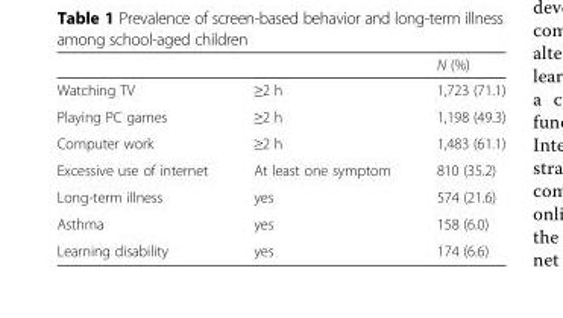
<table><thead><tr><td></td><td></td><td>N (%)</td></tr></thead><tbody><tr><td>Watching TV</td><td>≥2 h</td><td>1,723 (71.1)</td></tr><tr><td>Playing PC games</td><td>≥2 h</td><td>1,198 (49.3)</td></tr><tr><td>Computer work</td><td>≥2 h</td><td>1,483 (61.1)</td></tr><tr><td>Excessive use of internet</td><td>At least one symptom</td><td>810 (35.2)</td></tr><tr><td>Long-term illness</td><td>yes</td><td>574 (21.6)</td></tr><tr><td>Asthma</td><td>yes</td><td>158 (6.0)</td></tr><tr><td>Learning disability</td><td>yes</td><td>174 (6.6)</td></tr></tbody></table>